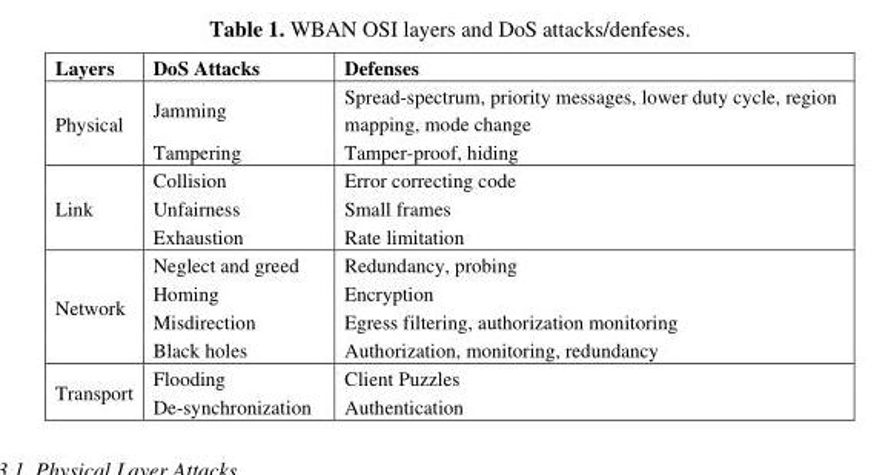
<table><thead><tr><td>Layers</td><td>DoS Attacks</td><td>Defenses</td></tr></thead><tbody><tr><td rowspan="2">Physical</td><td>Jamming</td><td>Spread-spectrum, priority messages, lower duty cycle, region mapping, mode change</td></tr><tr><td>Tampering</td><td>Tamper-proof, hiding</td></tr><tr><td rowspan="3">Link</td><td>Collision</td><td>Error correcting code</td></tr><tr><td>Unfairness</td><td>Small frames</td></tr><tr><td>Exhaustion</td><td>Rate limitation</td></tr><tr><td rowspan="4">Network</td><td>Neglect and greed</td><td>Redundancy, probing</td></tr><tr><td>Homing</td><td>Encryption</td></tr><tr><td>Misdirection</td><td>Egress filtering, authorization monitoring</td></tr><tr><td>Black holes</td><td>Authorization, monitoring, redundancy</td></tr><tr><td rowspan="2">Transport</td><td>Flooding</td><td>Client Puzzles</td></tr><tr><td>De-synchronization</td><td>Authentication</td></tr></tbody></table>